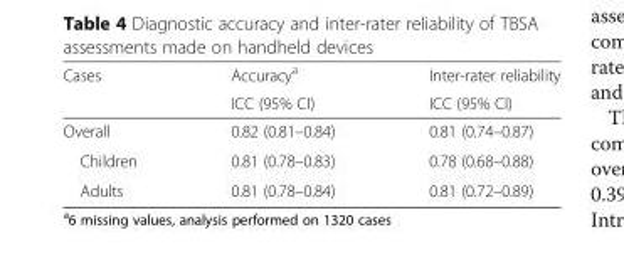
<table><thead><tr><td rowspan="2">Cases</td><td rowspan="2">Accuracy<sup>a</sup> ICC (95% CI)</td><td rowspan="2">Inter-rater reliability ICC (95% CI)</td></tr><tr></tr></thead><tbody><tr><td>Overall</td><td>0.82 (0.81–0.84)</td><td>0.81 (0.74–0.87)</td></tr><tr><td>Children</td><td>0.81 (0.78–0.83)</td><td>0.78 (0.68–0.88)</td></tr><tr><td>Adults</td><td>0.81 (0.78–0.84)</td><td>0.81 (0.72–0.89)</td></tr></tbody></table>